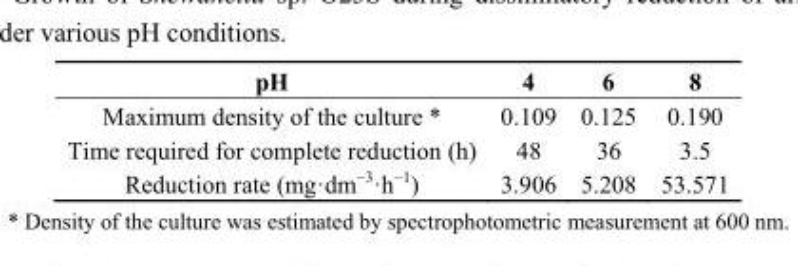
<table><thead><tr><td>pH</td><td>4</td><td>6</td><td>8</td></tr></thead><tbody><tr><td>Maximum density of the culture *</td><td>0.109</td><td>0.125</td><td>0.190</td></tr><tr><td>Time required for complete reduction (h)</td><td>48</td><td>36</td><td>3.5</td></tr><tr><td>Reduction rate (mg·dm<sup>−3</sup>·h<sup>−1</sup>)</td><td>3.906</td><td>5.208</td><td>53.571</td></tr></tbody></table>